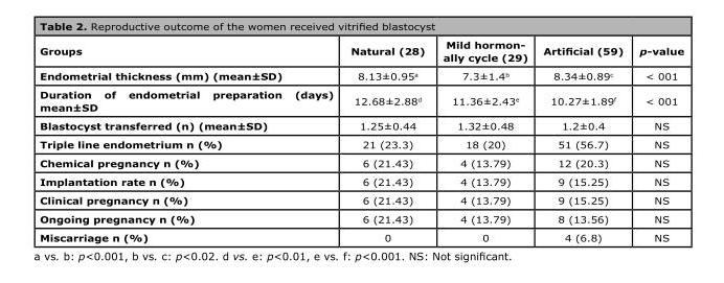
<table><thead><tr><td>Groups</td><td>Natural (28)</td><td>Mild hormon- ally cycle (29)</td><td>Artificial (59)</td><td>p-value</td></tr></thead><tbody><tr><td>Endometrial thickness (mm) (mean±SD)</td><td>8.13±0.95<sup>a</sup></td><td>7.3±1.4<sup>b</sup></td><td>8.34±0.89<sup>c</sup></td><td>&lt; 001</td></tr><tr><td>Duration of endometrial preparation (days) mean±SD</td><td>12.68±2.88<sup>d</sup></td><td>11.36±2.43<sup>e</sup></td><td>10.27±1.89<sup>f</sup></td><td>&lt; 001</td></tr><tr><td>Blastocyst transferred (n) (mean±SD)</td><td>1.25±0.44</td><td>1.32±0.48</td><td>1.2±0.4</td><td>NS</td></tr><tr><td>Triple line endometrium n (%)</td><td>21 (23.3)</td><td>18 (20)</td><td>51 (56.7)</td><td>NS</td></tr><tr><td>Chemical pregnancy n (%)</td><td>6 (21.43)</td><td>4 (13.79)</td><td>12 (20.3)</td><td>NS</td></tr><tr><td>Implantation rate n (%)</td><td>6 (21.43)</td><td>4 (13.79)</td><td>9 (15.25)</td><td>NS</td></tr><tr><td>Clinical pregnancy n (%)</td><td>6 (21.43)</td><td>4 (13.79)</td><td>9 (15.25)</td><td>NS</td></tr><tr><td>Ongoing pregnancy n (%)</td><td>6 (21.43)</td><td>4 (13.79)</td><td>8 (13.56)</td><td>NS</td></tr><tr><td>Miscarriage n (%)</td><td>0</td><td>0</td><td>4 (6.8)</td><td>NS</td></tr></tbody></table>